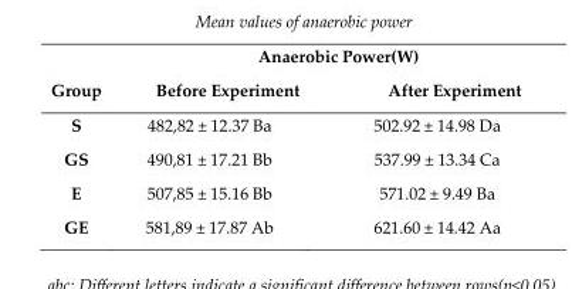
<table><thead><tr><td rowspan="2">Group</td><td colspan="2">Anaerobic Power(W)</td></tr><tr><td>Before Experiment</td><td>After Experiment</td></tr></thead><tbody><tr><td>S</td><td>482,82 ± 12.37 Ba</td><td>502.92 ± 14.98 Da</td></tr><tr><td>GS</td><td>490,81 ± 17.21 Bb</td><td>537.99 ± 13.34 Ca</td></tr><tr><td>E</td><td>507,85 ± 15.16 Bb</td><td>571.02 ± 9.49 Ba</td></tr><tr><td>GE</td><td>581,89 ± 17.87 Ab</td><td>621.60 ± 14.42 Aa</td></tr></tbody></table>